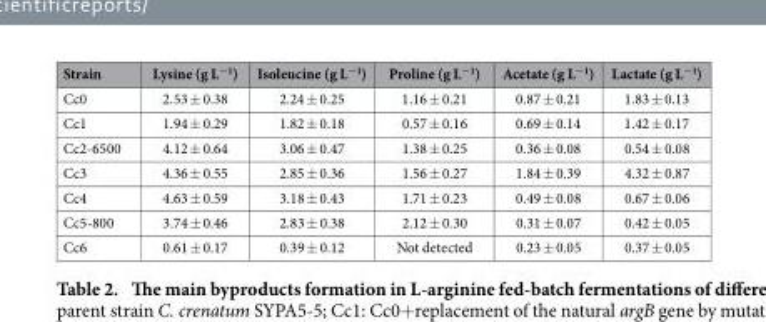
<table><thead><tr><td>Strain</td><td>Lysine (g L<sup>−1</sup>)</td><td>Isoleucine (g L<sup>−1</sup>)</td><td>Proline (g L<sup>−1</sup>)</td><td>Acetate (g L<sup>−1</sup>)</td><td>Lactate (g L<sup>−1</sup>)</td></tr></thead><tbody><tr><td>Cc0</td><td>2.53 ± 0.38</td><td>2.24 ± 0.25</td><td>1.16 ± 0.21</td><td>0.87 ± 0.21</td><td>1.83 ± 0.13</td></tr><tr><td>Cc1</td><td>1.94 ± 0.29</td><td>1.82 ± 0.18</td><td>0.57 ± 0.16</td><td>0.69 ± 0.14</td><td>1.42 ± 0.17</td></tr><tr><td>Cc2-6500</td><td>4.12 ± 0.64</td><td>3.06 ± 0.47</td><td>1.38 ± 0.25</td><td>0.36 ± 0.08</td><td>0.54 ± 0.08</td></tr><tr><td>Cc3</td><td>4.36 ± 0.55</td><td>2.85 ± 0.36</td><td>1.56 ± 0.27</td><td>1.84 ± 0.39</td><td>4.32 ± 0.87</td></tr><tr><td>Cc4</td><td>4.63 ± 0.59</td><td>3.18 ± 0.43</td><td>1.71 ± 0.23</td><td>0.49 ± 0.08</td><td>0.67 ± 0.06</td></tr><tr><td>Cc5-800</td><td>3.74 ± 0.46</td><td>2.83 ± 0.38</td><td>2.12 ± 0.30</td><td>0.31 ± 0.07</td><td>0.42 ± 0.05</td></tr><tr><td>Cc6</td><td>0.61 ± 0.17</td><td>0.39 ± 0.12</td><td>Not detected</td><td>0.23 ± 0.05</td><td>0.37 ± 0.05</td></tr></tbody></table>